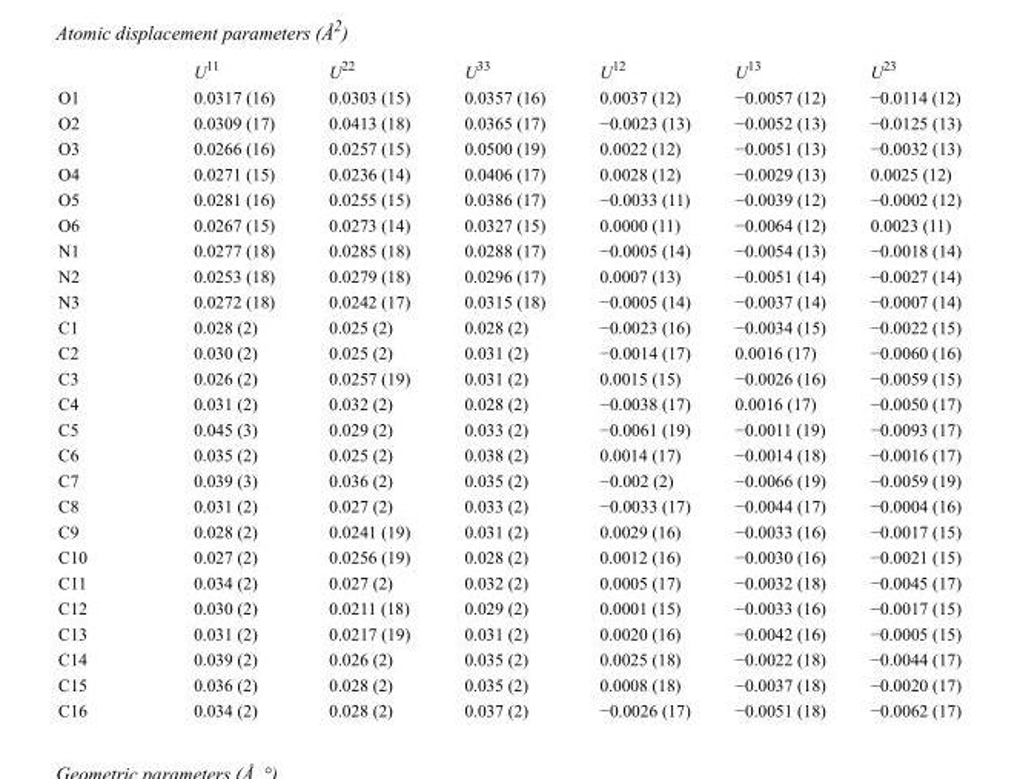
<table><thead><tr><td></td><td>U<sup>11</sup></td><td>U<sup>22</sup></td><td>U<sup>33</sup></td><td>U<sup>12</sup></td><td>U<sup>13</sup></td><td>U<sup>23</sup></td></tr></thead><tbody><tr><td>O1</td><td>0.0317 (16)</td><td>0.0303 (15)</td><td>0.0357 (16)</td><td>0.0037 (12)</td><td>−0.0057 (12)</td><td>−0.0114 (12)</td></tr><tr><td>O2</td><td>0.0309 (17)</td><td>0.0413 (18)</td><td>0.0365 (17)</td><td>−0.0023 (13)</td><td>−0.0052 (13)</td><td>−0.0125 (13)</td></tr><tr><td>O3</td><td>0.0266 (16)</td><td>0.0257 (15)</td><td>0.0500 (19)</td><td>0.0022 (12)</td><td>−0.0051 (13)</td><td>−0.0032 (13)</td></tr><tr><td>O4</td><td>0.0271 (15)</td><td>0.0236 (14)</td><td>0.0406 (17)</td><td>0.0028 (12)</td><td>−0.0029 (13)</td><td>0.0025 (12)</td></tr><tr><td>O5</td><td>0.0281 (16)</td><td>0.0255 (15)</td><td>0.0386 (17)</td><td>−0.0033 (11)</td><td>−0.0039 (12)</td><td>−0.0002 (12)</td></tr><tr><td>O6</td><td>0.0267 (15)</td><td>0.0273 (14)</td><td>0.0327 (15)</td><td>0.0000 (11)</td><td>−0.0064 (12)</td><td>0.0023 (11)</td></tr><tr><td>N1</td><td>0.0277 (18)</td><td>0.0285 (18)</td><td>0.0288 (17)</td><td>−0.0005 (14)</td><td>−0.0054 (13)</td><td>−0.0018 (14)</td></tr><tr><td>N2</td><td>0.0253 (18)</td><td>0.0279 (18)</td><td>0.0296 (17)</td><td>0.0007 (13)</td><td>−0.0051 (14)</td><td>−0.0027 (14)</td></tr><tr><td>N3</td><td>0.0272 (18)</td><td>0.0242 (17)</td><td>0.0315 (18)</td><td>−0.0005 (14)</td><td>−0.0037 (14)</td><td>−0.0007 (14)</td></tr><tr><td>C1</td><td>0.028 (2)</td><td>0.025 (2)</td><td>0.028 (2)</td><td>−0.0023 (16)</td><td>−0.0034 (15)</td><td>−0.0022 (15)</td></tr><tr><td>C2</td><td>0.030 (2)</td><td>0.025 (2)</td><td>0.031 (2)</td><td>−0.0014 (17)</td><td>0.0016 (17)</td><td>−0.0060 (16)</td></tr><tr><td>C3</td><td>0.026 (2)</td><td>0.0257 (19)</td><td>0.031 (2)</td><td>0.0015 (15)</td><td>−0.0026 (16)</td><td>−0.0059 (15)</td></tr><tr><td>C4</td><td>0.031 (2)</td><td>0.032 (2)</td><td>0.028 (2)</td><td>−0.0038 (17)</td><td>0.0016 (17)</td><td>−0.0050 (17)</td></tr><tr><td>C5</td><td>0.045 (3)</td><td>0.029 (2)</td><td>0.033 (2)</td><td>−0.0061 (19)</td><td>−0.0011 (19)</td><td>−0.0093 (17)</td></tr><tr><td>C6</td><td>0.035 (2)</td><td>0.025 (2)</td><td>0.038 (2)</td><td>0.0014 (17)</td><td>−0.0014 (18)</td><td>−0.0016 (17)</td></tr><tr><td>C7</td><td>0.039 (3)</td><td>0.036 (2)</td><td>0.035 (2)</td><td>−0.002 (2)</td><td>−0.0066 (19)</td><td>−0.0059 (19)</td></tr><tr><td>C8</td><td>0.031 (2)</td><td>0.027 (2)</td><td>0.033 (2)</td><td>−0.0033 (17)</td><td>−0.0044 (17)</td><td>−0.0004 (16)</td></tr><tr><td>C9</td><td>0.028 (2)</td><td>0.0241 (19)</td><td>0.031 (2)</td><td>0.0029 (16)</td><td>−0.0033 (16)</td><td>−0.0017 (15)</td></tr><tr><td>C10</td><td>0.027 (2)</td><td>0.0256 (19)</td><td>0.028 (2)</td><td>0.0012 (16)</td><td>−0.0030 (16)</td><td>−0.0021 (15)</td></tr><tr><td>C11</td><td>0.034 (2)</td><td>0.027 (2)</td><td>0.032 (2)</td><td>0.0005 (17)</td><td>−0.0032 (18)</td><td>−0.0045 (17)</td></tr><tr><td>C12</td><td>0.030 (2)</td><td>0.0211 (18)</td><td>0.029 (2)</td><td>0.0001 (15)</td><td>−0.0033 (16)</td><td>−0.0017 (15)</td></tr><tr><td>C13</td><td>0.031 (2)</td><td>0.0217 (19)</td><td>0.031 (2)</td><td>0.0020 (16)</td><td>−0.0042 (16)</td><td>−0.0005 (15)</td></tr><tr><td>C14</td><td>0.039 (2)</td><td>0.026 (2)</td><td>0.035 (2)</td><td>0.0025 (18)</td><td>−0.0022 (18)</td><td>−0.0044 (17)</td></tr><tr><td>C15</td><td>0.036 (2)</td><td>0.028 (2)</td><td>0.035 (2)</td><td>0.0008 (18)</td><td>−0.0037 (18)</td><td>−0.0020 (17)</td></tr><tr><td>C16</td><td>0.034 (2)</td><td>0.028 (2)</td><td>0.037 (2)</td><td>−0.0026 (17)</td><td>−0.0051 (18)</td><td>−0.0062 (17)</td></tr></tbody></table>